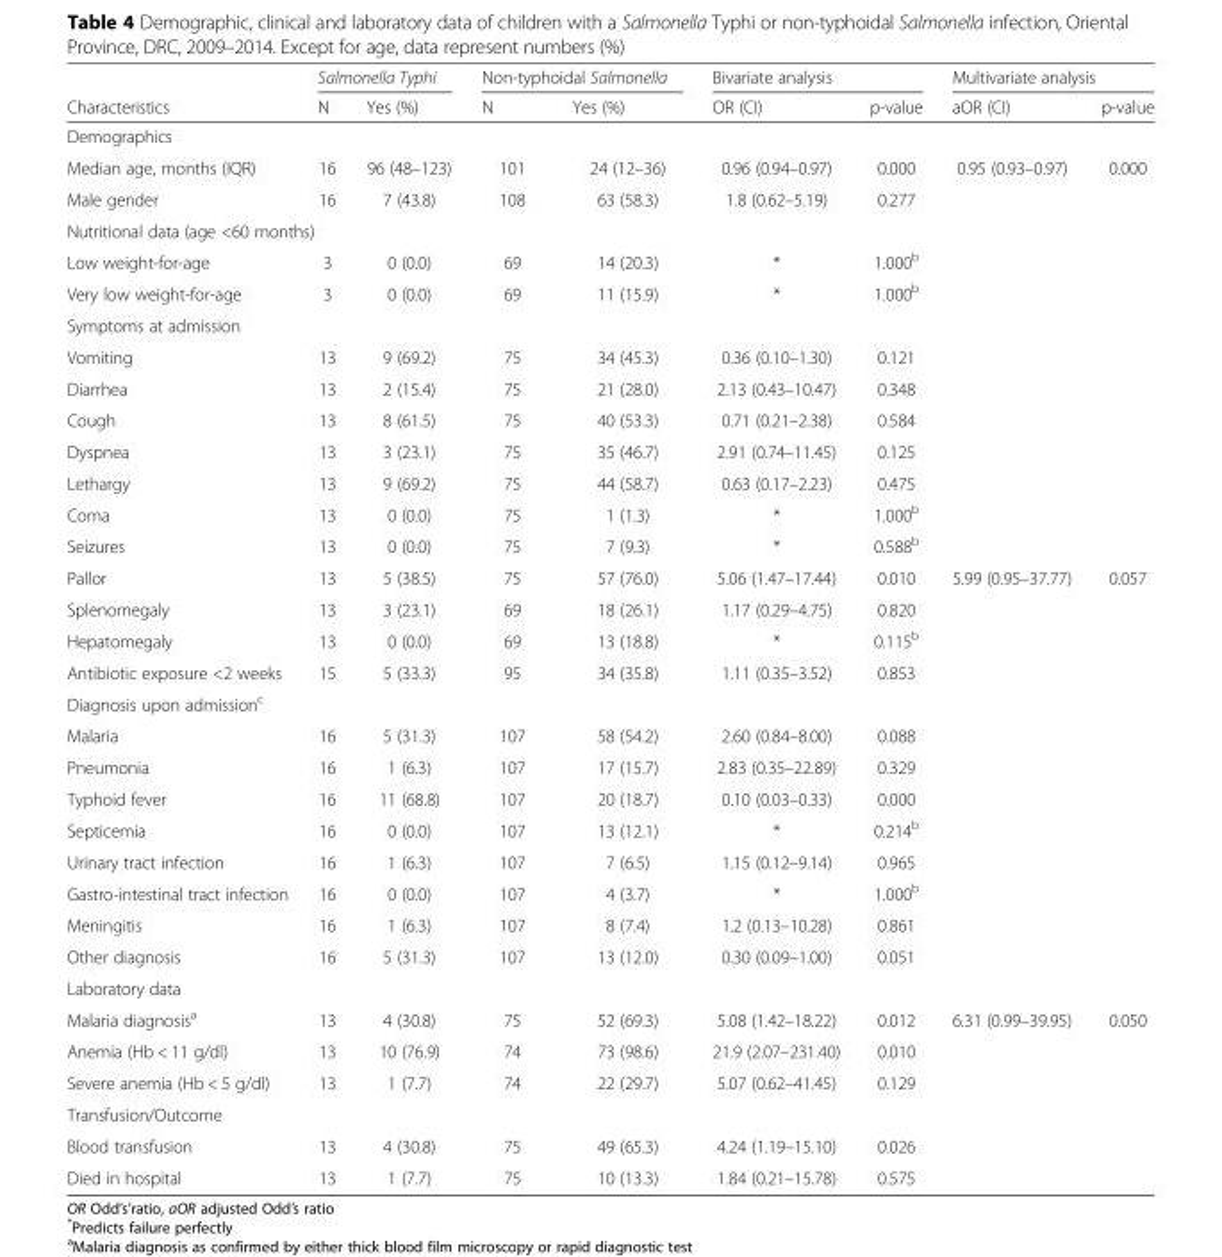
<table><thead><tr><td rowspan="2">Characteristics</td><td colspan="2">Salmonella Typhi</td><td colspan="2">Non-typhoidal Salmonella</td><td colspan="2">Bivariate analysis</td><td colspan="2">Multivariate analysis</td></tr><tr><td>N</td><td>Yes (%)</td><td>N</td><td>Yes (%)</td><td>OR (CI)</td><td>p-value</td><td>aOR (CI)</td><td>p-value</td></tr></thead><tbody><tr><td colspan="9">Demographics</td></tr><tr><td>Median age, months (IQR)</td><td>16</td><td>96 (48–123)</td><td>101</td><td>24 (12–36)</td><td>0.96 (0.94–0.97)</td><td>0.000</td><td>0.95 (0.93–0.97)</td><td>0.000</td></tr><tr><td>Male gender</td><td>16</td><td>7 (43.8)</td><td>108</td><td>63 (58.3)</td><td>1.8 (0.62–5.19)</td><td>0.277</td><td></td><td></td></tr><tr><td colspan="9">Nutritional data (age &lt;60 months)</td></tr><tr><td>Low weight-for-age</td><td>3</td><td>0 (0.0)</td><td>69</td><td>14 (20.3)</td><td>*</td><td>1.000<sup>b</sup></td><td></td><td></td></tr><tr><td>Very low weight-for-age</td><td>3</td><td>0 (0.0)</td><td>69</td><td>11 (15.9)</td><td>*</td><td>1.000<sup>b</sup></td><td></td><td></td></tr><tr><td colspan="9">Symptoms at admission</td></tr><tr><td>Vomiting</td><td>13</td><td>9 (69.2)</td><td>75</td><td>34 (45.3)</td><td>0.36 (0.10–1.30)</td><td>0.121</td><td></td><td></td></tr><tr><td>Diarrhea</td><td>13</td><td>2 (15.4)</td><td>75</td><td>21 (28.0)</td><td>2.13 (0.43–10.47)</td><td>0.348</td><td></td><td></td></tr><tr><td>Cough</td><td>13</td><td>8 (61.5)</td><td>75</td><td>40 (53.3)</td><td>0.71 (0.21–2.38)</td><td>0.584</td><td></td><td></td></tr><tr><td>Dyspnea</td><td>13</td><td>3 (23.1)</td><td>75</td><td>35 (46.7)</td><td>2.91 (0.74–11.45)</td><td>0.125</td><td></td><td></td></tr><tr><td>Lethargy</td><td>13</td><td>9 (69.2)</td><td>75</td><td>44 (58.7)</td><td>0.63 (0.17–2.23)</td><td>0.475</td><td></td><td></td></tr><tr><td>Coma</td><td>13</td><td>0 (0.0)</td><td>75</td><td>1 (1.3)</td><td>*</td><td>1.000<sup>b</sup></td><td></td><td></td></tr><tr><td>Seizures</td><td>13</td><td>0 (0.0)</td><td>75</td><td>7 (9.3)</td><td>*</td><td>0.588<sup>b</sup></td><td></td><td></td></tr><tr><td>Pallor</td><td>13</td><td>5 (38.5)</td><td>75</td><td>57 (76.0)</td><td>5.06 (1.47–17.44)</td><td>0.010</td><td>5.99 (0.95–37.77)</td><td>0.057</td></tr><tr><td>Splenomegaly</td><td>13</td><td>3 (23.1)</td><td>69</td><td>18 (26.1)</td><td>1.17 (0.29–4.75)</td><td>0.820</td><td></td><td></td></tr><tr><td>Hepatomegaly</td><td>13</td><td>0 (0.0)</td><td>69</td><td>13 (18.8)</td><td>*</td><td>0.115<sup>b</sup></td><td></td><td></td></tr><tr><td>Antibiotic exposure &lt;2 weeks</td><td>15</td><td>5 (33.3)</td><td>95</td><td>34 (35.8)</td><td>1.11 (0.35–3.52)</td><td>0.853</td><td></td><td></td></tr><tr><td colspan="9">Diagnosis upon admission<sup>c</sup></td></tr><tr><td>Malaria</td><td>16</td><td>5 (31.3)</td><td>107</td><td>58 (54.2)</td><td>2.60 (0.84–8.00)</td><td>0.088</td><td></td><td></td></tr><tr><td>Pneumonia</td><td>16</td><td>1 (6.3)</td><td>107</td><td>17 (15.7)</td><td>2.83 (0.35–22.89)</td><td>0.329</td><td></td><td></td></tr><tr><td>Typhoid fever</td><td>16</td><td>11 (68.8)</td><td>107</td><td>20 (18.7)</td><td>0.10 (0.03–0.33)</td><td>0.000</td><td></td><td></td></tr><tr><td>Septicemia</td><td>16</td><td>0 (0.0)</td><td>107</td><td>13 (12.1)</td><td>*</td><td>0.214<sup>b</sup></td><td></td><td></td></tr><tr><td>Urinary tract infection</td><td>16</td><td>1 (6.3)</td><td>107</td><td>7 (6.5)</td><td>1.15 (0.12–9.14)</td><td>0.965</td><td></td><td></td></tr><tr><td>Gastro-intestinal tract infection</td><td>16</td><td>0 (0.0)</td><td>107</td><td>4 (3.7)</td><td>*</td><td>1.000<sup>b</sup></td><td></td><td></td></tr><tr><td>Meningitis</td><td>16</td><td>1 (6.3)</td><td>107</td><td>8 (7.4)</td><td>1.2 (0.13–10.28)</td><td>0.861</td><td></td><td></td></tr><tr><td>Other diagnosis</td><td>16</td><td>5 (31.3)</td><td>107</td><td>13 (12.0)</td><td>0.30 (0.09–1.00)</td><td>0.051</td><td></td><td></td></tr><tr><td colspan="9">Laboratory data</td></tr><tr><td>Malaria diagnosis<sup>a</sup></td><td>13</td><td>4 (30.8)</td><td>75</td><td>52 (69.3)</td><td>5.08 (1.42–18.22)</td><td>0.012</td><td>6.31 (0.99–39.95)</td><td>0.050</td></tr><tr><td>Anemia (Hb &lt; 11 g/dl)</td><td>13</td><td>10 (76.9)</td><td>74</td><td>73 (98.6)</td><td>21.9 (2.07–231.40)</td><td>0.010</td><td></td><td></td></tr><tr><td>Severe anemia (Hb &lt; 5 g/dl)</td><td>13</td><td>1 (7.7)</td><td>74</td><td>22 (29.7)</td><td>5.07 (0.62–41.45)</td><td>0.129</td><td></td><td></td></tr><tr><td colspan="9">Transfusion/Outcome</td></tr><tr><td>Blood transfusion</td><td>13</td><td>4 (30.8)</td><td>75</td><td>49 (65.3)</td><td>4.24 (1.19–15.10)</td><td>0.026</td><td></td><td></td></tr><tr><td>Died in hospital</td><td>13</td><td>1 (7.7)</td><td>75</td><td>10 (13.3)</td><td>1.84 (0.21–15.78)</td><td>0.575</td><td></td><td></td></tr></tbody></table>